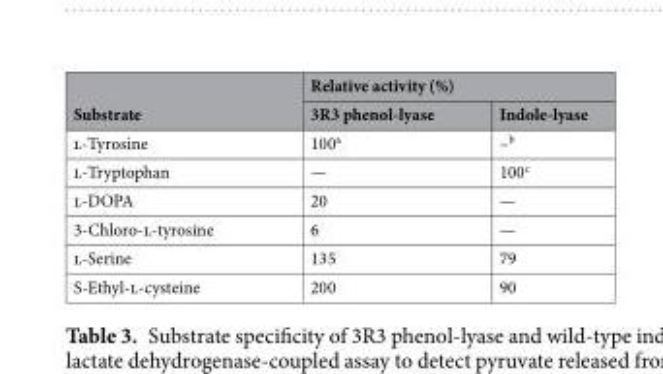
<table><thead><tr><td rowspan="2">Substrate</td><td colspan="2">Relative activity (%)</td></tr><tr><td>3R3 phenol-lyase</td><td>Indole-lyase</td></tr></thead><tbody><tr><td>l-Tyrosine</td><td>100<sup>a</sup></td><td>–<sup>b</sup></td></tr><tr><td>l-Tryptophan</td><td>—</td><td>100<sup>c</sup></td></tr><tr><td>l-DOPA</td><td>20</td><td>—</td></tr><tr><td>3-Chloro-l-tyrosine</td><td>6</td><td>—</td></tr><tr><td>l-Serine</td><td>135</td><td>79</td></tr><tr><td>S-Ethyl-l-cysteine</td><td>200</td><td>90</td></tr></tbody></table>